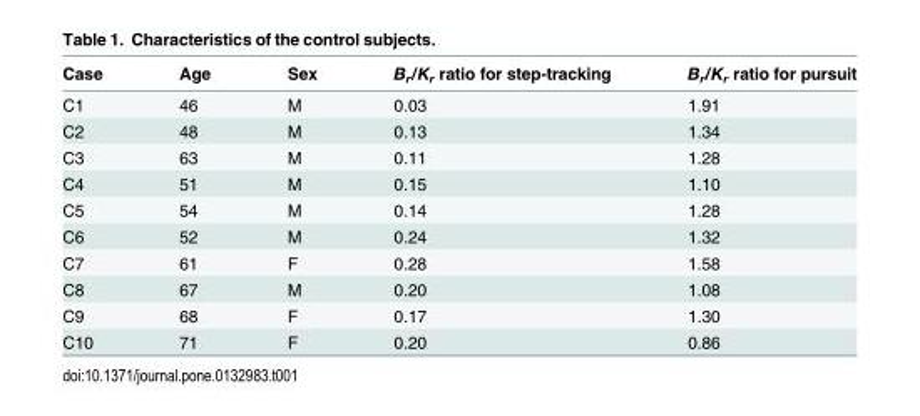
<table><thead><tr><td>Case</td><td>Age</td><td>Sex</td><td>B<sub>r</sub>/K<sub>r</sub> ratio for step-tracking</td><td>B<sub>r</sub>/K<sub>r</sub> ratio for pursuit</td></tr></thead><tbody><tr><td>C1</td><td>46</td><td>M</td><td>0.03</td><td>1.91</td></tr><tr><td>C2</td><td>48</td><td>M</td><td>0.13</td><td>1.34</td></tr><tr><td>C3</td><td>63</td><td>M</td><td>0.11</td><td>1.28</td></tr><tr><td>C4</td><td>51</td><td>M</td><td>0.15</td><td>1.10</td></tr><tr><td>C5</td><td>54</td><td>M</td><td>0.14</td><td>1.28</td></tr><tr><td>C6</td><td>52</td><td>M</td><td>0.24</td><td>1.32</td></tr><tr><td>C7</td><td>61</td><td>F</td><td>0.28</td><td>1.58</td></tr><tr><td>C8</td><td>67</td><td>M</td><td>0.20</td><td>1.08</td></tr><tr><td>C9</td><td>68</td><td>F</td><td>0.17</td><td>1.30</td></tr><tr><td>C10</td><td>71</td><td>F</td><td>0.20</td><td>0.86</td></tr></tbody></table>